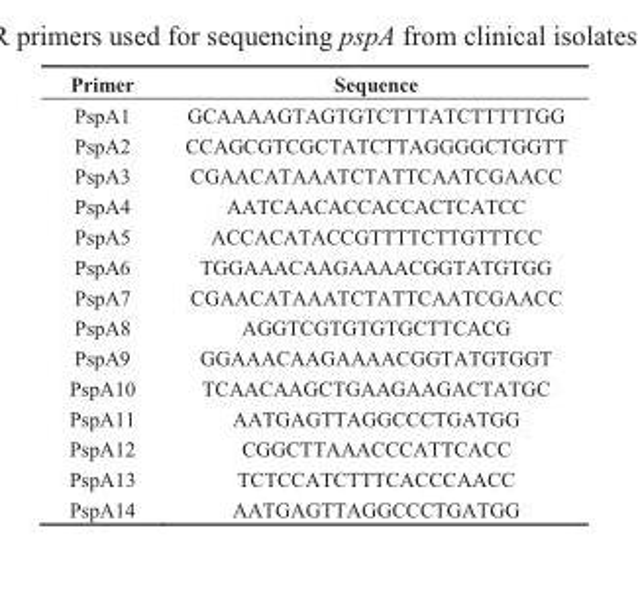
<table><thead><tr><td>Primer</td><td>Sequence</td></tr></thead><tbody><tr><td>PspA1</td><td>GCAAAAGTAGTGTCTTTATCTTTTTGG</td></tr><tr><td>PspA2</td><td>CCAGCGTCGCTATCTTAGGGGCTGGTT</td></tr><tr><td>PspA3</td><td>CGAACATAAATCTATTCAATCGAACC</td></tr><tr><td>PspA4</td><td>AATCAACACCACCACTCATCC</td></tr><tr><td>PspA5</td><td>ACCACATACCGTTTTCTTGTTTCC</td></tr><tr><td>PspA6</td><td>TGGAAACAAGAAAACGGTATGTGG</td></tr><tr><td>PspA7</td><td>CGAACATAAATCTATTCAATCGAACC</td></tr><tr><td>PspA8</td><td>AGGTCGTGTGTGCTTCACG</td></tr><tr><td>PspA9</td><td>GGAAACAAGAAAACGGTATGTGGT</td></tr><tr><td>PspA10</td><td>TCAACAAGCTGAAGAAGACTATGC</td></tr><tr><td>PspA11</td><td>AATGAGTTAGGCCCTGATGG</td></tr><tr><td>PspA12</td><td>CGGCTTAAACCCATTCACC</td></tr><tr><td>PspA13</td><td>TCTCCATCTTTCACCCAACC</td></tr><tr><td>PspA14</td><td>AATGAGTTAGGCCCTGATGG</td></tr></tbody></table>